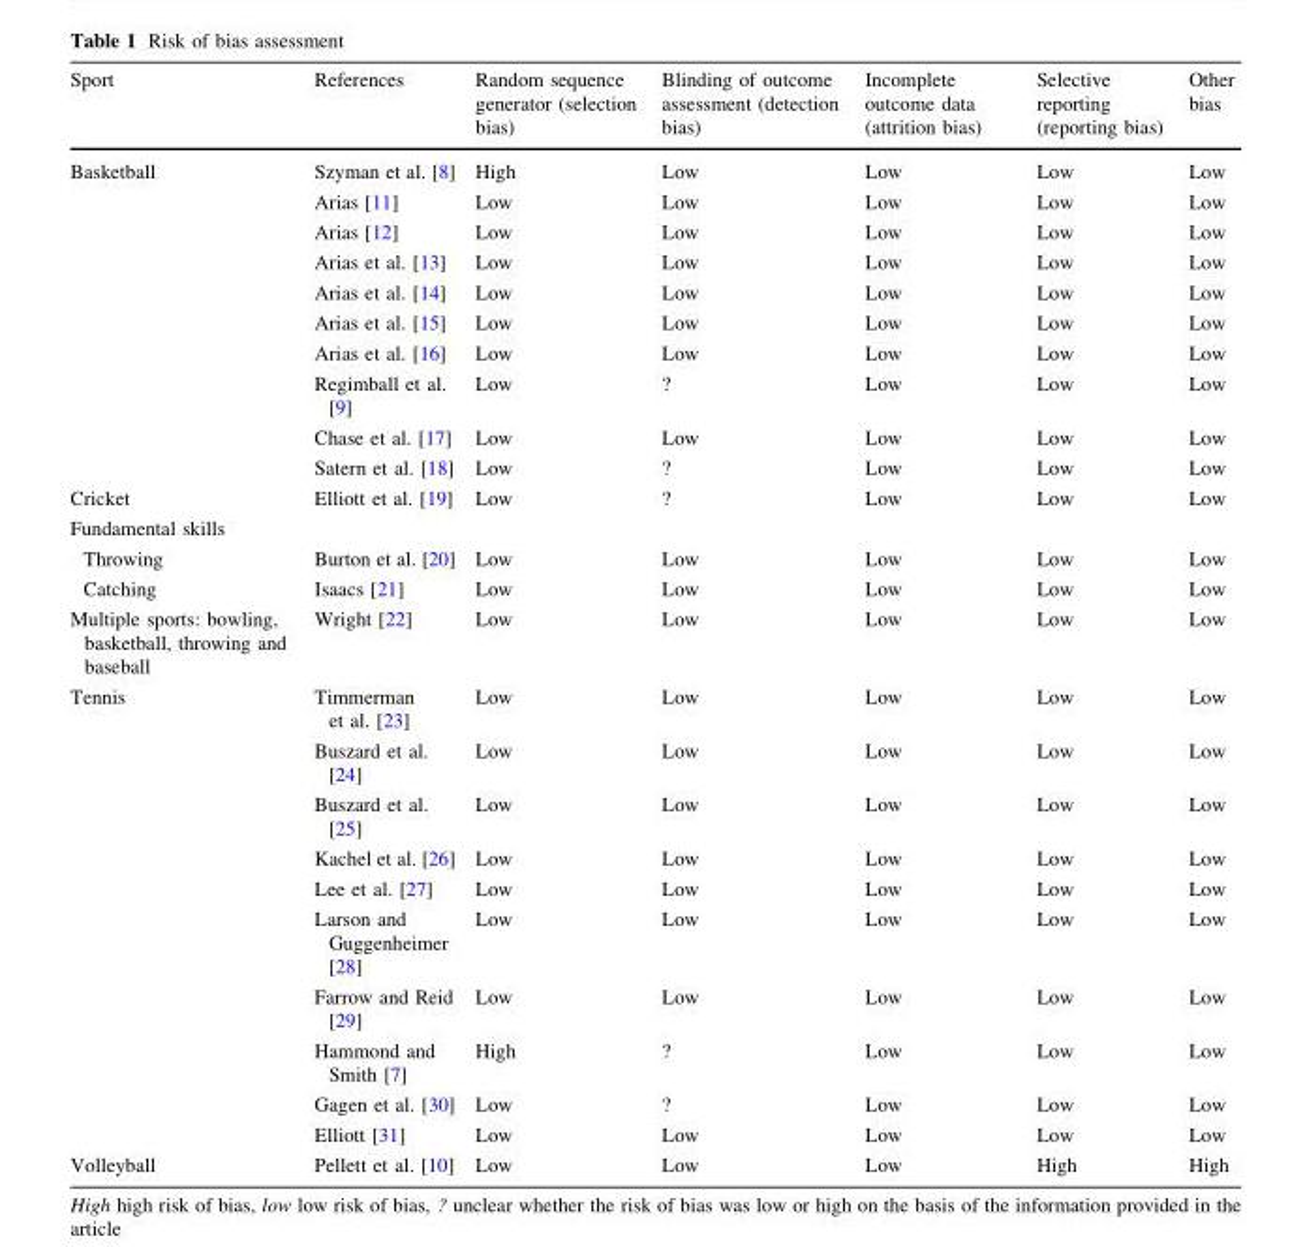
<table><thead><tr><td>Sport</td><td>References</td><td>Random sequence generator (selection bias)</td><td>Blinding of outcome assessment (detection bias)</td><td>Incomplete outcome data (attrition bias)</td><td>Selective reporting (reporting bias)</td><td>Other bias</td></tr></thead><tbody><tr><td rowspan="10">Basketball</td><td>Szyman et al. [8]</td><td>High</td><td>Low</td><td>Low</td><td>Low</td><td>Low</td></tr><tr><td>Arias [11]</td><td>Low</td><td>Low</td><td>Low</td><td>Low</td><td>Low</td></tr><tr><td>Arias [12]</td><td>Low</td><td>Low</td><td>Low</td><td>Low</td><td>Low</td></tr><tr><td>Arias et al. [13]</td><td>Low</td><td>Low</td><td>Low</td><td>Low</td><td>Low</td></tr><tr><td>Arias et al. [14]</td><td>Low</td><td>Low</td><td>Low</td><td>Low</td><td>Low</td></tr><tr><td>Arias et al. [15]</td><td>Low</td><td>Low</td><td>Low</td><td>Low</td><td>Low</td></tr><tr><td>Arias et al. [16]</td><td>Low</td><td>Low</td><td>Low</td><td>Low</td><td>Low</td></tr><tr><td>Regimball et al. [9]</td><td>Low</td><td>?</td><td>Low</td><td>Low</td><td>Low</td></tr><tr><td>Chase et al. [17]</td><td>Low</td><td>Low</td><td>Low</td><td>Low</td><td>Low</td></tr><tr><td>Satern et al. [18]</td><td>Low</td><td>?</td><td>Low</td><td>Low</td><td>Low</td></tr><tr><td>Cricket</td><td>Elliott et al. [19]</td><td>Low</td><td>?</td><td>Low</td><td>Low</td><td>Low</td></tr><tr><td colspan="7">Fundamental skills</td></tr><tr><td>Throwing</td><td>Burton et al. [20]</td><td>Low</td><td>Low</td><td>Low</td><td>Low</td><td>Low</td></tr><tr><td>Catching</td><td>Isaacs [21]</td><td>Low</td><td>Low</td><td>Low</td><td>Low</td><td>Low</td></tr><tr><td>Multiple sports: bowling, basketball, throwing and baseball</td><td>Wright [22]</td><td>Low</td><td>Low</td><td>Low</td><td>Low</td><td>Low</td></tr><tr><td rowspan="10">Tennis</td><td>Timmerman et al. [23]</td><td>Low</td><td>Low</td><td>Low</td><td>Low</td><td>Low</td></tr><tr><td>Buszard et al. [24]</td><td>Low</td><td>Low</td><td>Low</td><td>Low</td><td>Low</td></tr><tr><td>Buszard et al. [25]</td><td>Low</td><td>Low</td><td>Low</td><td>Low</td><td>Low</td></tr><tr><td>Kachel et al. [26]</td><td>Low</td><td>Low</td><td>Low</td><td>Low</td><td>Low</td></tr><tr><td>Lee et al. [27]</td><td>Low</td><td>Low</td><td>Low</td><td>Low</td><td>Low</td></tr><tr><td>Larson and Guggenheimer [28]</td><td>Low</td><td>Low</td><td>Low</td><td>Low</td><td>Low</td></tr><tr><td>Farrow and Reid [29]</td><td>Low</td><td>Low</td><td>Low</td><td>Low</td><td>Low</td></tr><tr><td>Hammond and Smith [7]</td><td>High</td><td>?</td><td>Low</td><td>Low</td><td>Low</td></tr><tr><td>Gagen et al. [30]</td><td>Low</td><td>?</td><td>Low</td><td>Low</td><td>Low</td></tr><tr><td>Elliott [31]</td><td>Low</td><td>Low</td><td>Low</td><td>Low</td><td>Low</td></tr><tr><td>Volleyball</td><td>Pellett et al. [10]</td><td>Low</td><td>Low</td><td>Low</td><td>High</td><td>High</td></tr></tbody></table>